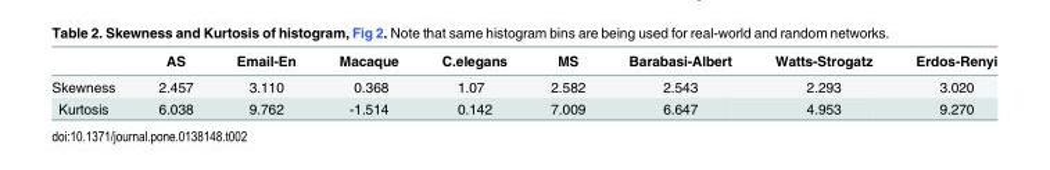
<table><thead><tr><td></td><td>AS</td><td>Email-En</td><td>Macaque</td><td>C.elegans</td><td>MS</td><td>Barabasi-Albert</td><td>Watts-Strogatz</td><td>Erdos-Renyi</td></tr></thead><tbody><tr><td>Skewness</td><td>2.457</td><td>3.110</td><td>0.368</td><td>1.07</td><td>2.582</td><td>2.543</td><td>2.293</td><td>3.020</td></tr><tr><td>Kurtosis</td><td>6.038</td><td>9.762</td><td>-1.514</td><td>0.142</td><td>7.009</td><td>6.647</td><td>4.953</td><td>9.270</td></tr></tbody></table>